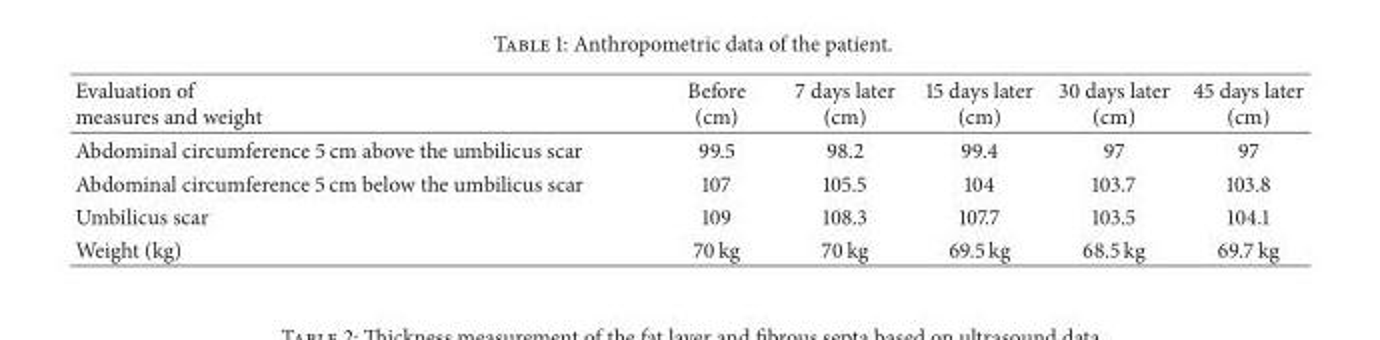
<table><thead><tr><td>Evaluation of measures and weight</td><td>Before (cm)</td><td>7 days later (cm)</td><td>15 days later (cm)</td><td>30 days later (cm)</td><td>45 days later (cm)</td></tr></thead><tbody><tr><td>Abdominal circumference 5 cm above the umbilicus scar</td><td>99.5</td><td>98.2</td><td>99.4</td><td>97</td><td>97</td></tr><tr><td>Abdominal circumference 5 cm below the umbilicus scar</td><td>107</td><td>105.5</td><td>104</td><td>103.7</td><td>103.8</td></tr><tr><td>Umbilicus scar</td><td>109</td><td>108.3</td><td>107.7</td><td>103.5</td><td>104.1</td></tr><tr><td>Weight (kg)</td><td>70 kg</td><td>70 kg</td><td>69.5 kg</td><td>68.5 kg</td><td>69.7 kg</td></tr></tbody></table>